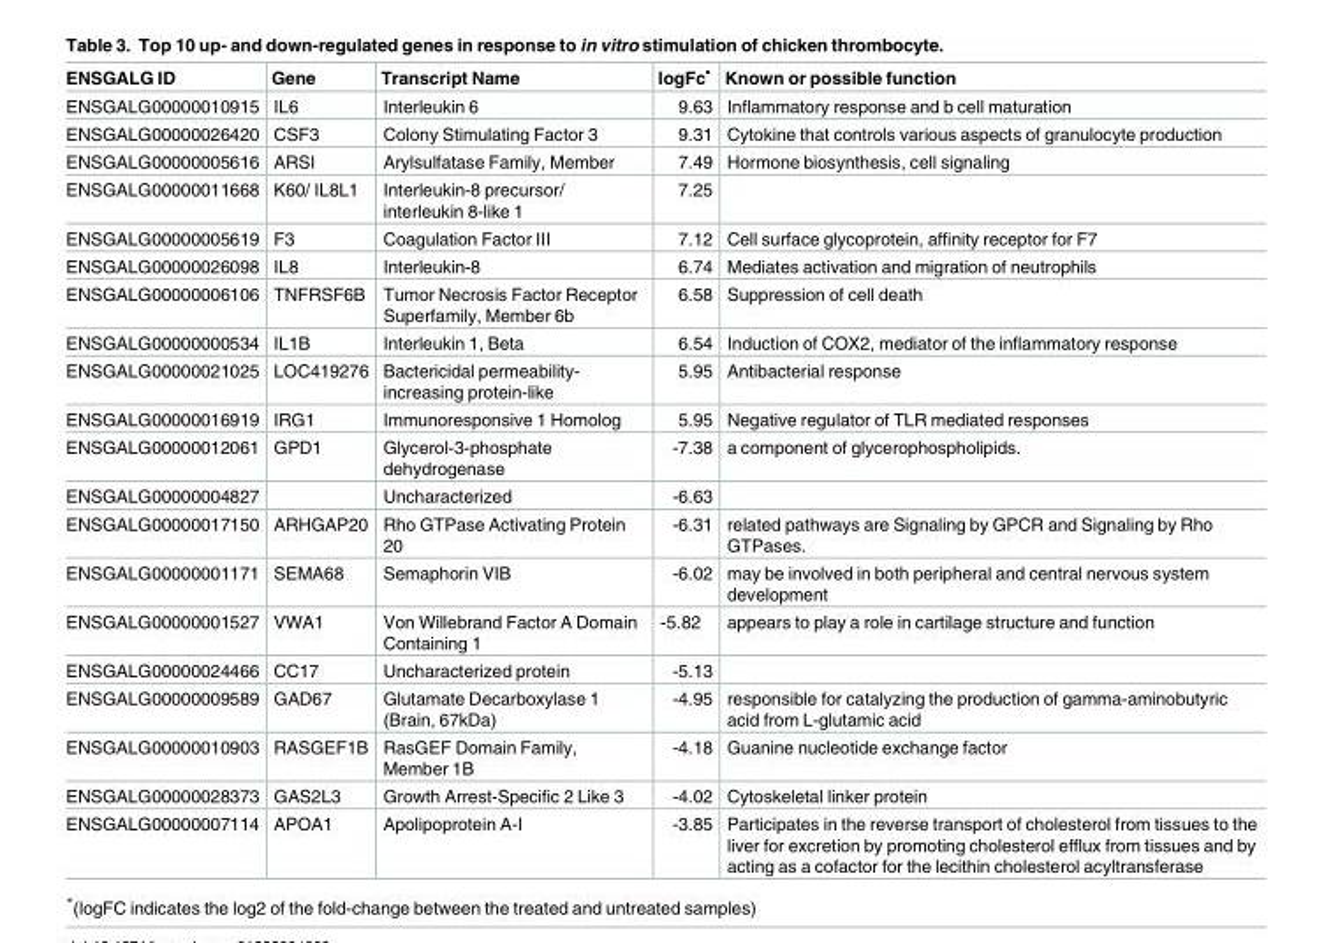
<table><thead><tr><td>ENSGALG ID</td><td>Gene</td><td>Transcript Name</td><td>logFc<sup>•</sup></td><td>Known or possible function</td></tr></thead><tbody><tr><td>ENSGALG00000010915</td><td>IL6</td><td>Interleukin 6</td><td>9.63</td><td>Inflammatory response and b cell maturation</td></tr><tr><td>ENSGALG00000026420</td><td>CSF3</td><td>Colony Stimulating Factor 3</td><td>9.31</td><td>Cytokine that controls various aspects of granulocyte production</td></tr><tr><td>ENSGALG00000005616</td><td>ARSI</td><td>Arylsulfatase Family, Member</td><td>7.49</td><td>Hormone biosynthesis, cell signaling</td></tr><tr><td>ENSGALG00000011668</td><td>K60/ IL8L1</td><td>Interleukin-8 precursor/ interleukin 8-like 1</td><td>7.25</td><td></td></tr><tr><td>ENSGALG00000005619</td><td>F3</td><td>Coagulation Factor III</td><td>7.12</td><td>Cell surface glycoprotein, affinity receptor for F7</td></tr><tr><td>ENSGALG00000026098</td><td>IL8</td><td>Interleukin-8</td><td>6.74</td><td>Mediates activation and migration of neutrophils</td></tr><tr><td>ENSGALG00000006106</td><td>TNFRSF6B</td><td>Tumor Necrosis Factor Receptor Superfamily, Member 6b</td><td>6.58</td><td>Suppression of cell death</td></tr><tr><td>ENSGALG00000000534</td><td>IL1B</td><td>Interleukin 1, Beta</td><td>6.54</td><td>Induction of COX2, mediator of the inflammatory response</td></tr><tr><td>ENSGALG00000021025</td><td>LOC419276</td><td>Bactericidal permeability- increasing protein-like</td><td>5.95</td><td>Antibacterial response</td></tr><tr><td>ENSGALG00000016919</td><td>IRG1</td><td>Immunoresponsive 1 Homolog</td><td>5.95</td><td>Negative regulator of TLR mediated responses</td></tr><tr><td>ENSGALG00000012061</td><td>GPD1</td><td>Glycerol-3-phosphate dehydrogenase</td><td>-7.38</td><td>a component of glycerophospholipids.</td></tr><tr><td>ENSGALG00000004827</td><td></td><td>Uncharacterized</td><td>-6.63</td><td></td></tr><tr><td>ENSGALG00000017150</td><td>ARHGAP20</td><td>Rho GTPase Activating Protein 20</td><td>-6.31</td><td>related pathways are Signaling by GPCR and Signaling by Rho GTPases.</td></tr><tr><td>ENSGALG00000001171</td><td>SEMA68</td><td>Semaphorin VIB</td><td>-6.02</td><td>may be involved in both peripheral and central nervous system development</td></tr><tr><td>ENSGALG00000001527</td><td>VWA1</td><td>Von Willebrand Factor A Domain Containing 1</td><td>-5.82</td><td>appears to play a role in cartilage structure and function</td></tr><tr><td>ENSGALG00000024466</td><td>CC17</td><td>Uncharacterized protein</td><td>-5.13</td><td></td></tr><tr><td>ENSGALG00000009589</td><td>GAD67</td><td>Glutamate Decarboxylase 1 (Brain, 67kDa)</td><td>-4.95</td><td>responsible for catalyzing the production of gamma-aminobutyric acid from L-glutamic acid</td></tr><tr><td>ENSGALG00000010903</td><td>RASGEF1B</td><td>RasGEF Domain Family, Member 1B</td><td>-4.18</td><td>Guanine nucleotide exchange factor</td></tr><tr><td>ENSGALG00000028373</td><td>GAS2L3</td><td>Growth Arrest-Specific 2 Like 3</td><td>-4.02</td><td>Cytoskeletal linker protein</td></tr><tr><td>ENSGALG00000007114</td><td>APOA1</td><td>Apolipoprotein A-I</td><td>-3.85</td><td>Participates in the reverse transport of cholesterol from tissues to the liver for excretion by promoting cholesterol efflux from tissues and by acting as a cofactor for the lecithin cholesterol acyltransferase</td></tr></tbody></table>